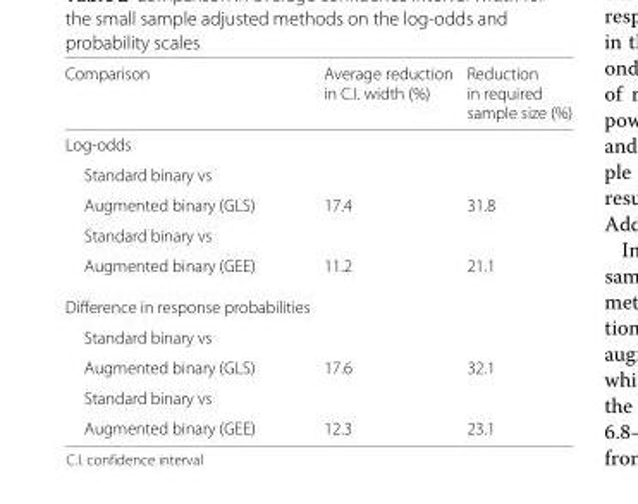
<table><thead><tr><td>Comparison</td><td>Average reduction in C.I. width (%)</td><td>Reduction in required sample size (%)</td></tr></thead><tbody><tr><td colspan="3">Log-odds</td></tr><tr><td>Standard binary vs Augmented binary (GLS)</td><td>17.4</td><td>31.8</td></tr><tr><td>Standard binary vs Augmented binary (GEE)</td><td>11.2</td><td>21.1</td></tr><tr><td colspan="3">Difference in response probabilities</td></tr><tr><td>Standard binary vs Augmented binary (GLS)</td><td>17.6</td><td>32.1</td></tr><tr><td>Standard binary vs Augmented binary (GEE)</td><td>12.3</td><td>23.1</td></tr></tbody></table>